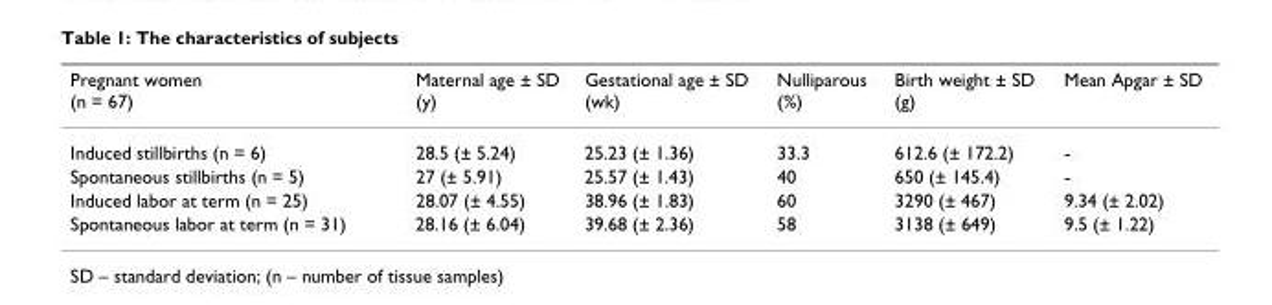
<table><thead><tr><td>Pregnant women (n = 67)</td><td>Maternal age ± SD (y)</td><td>Gestational age ± SD (wk)</td><td>Nulliparous (%)</td><td>Birth weight ± SD (g)</td><td>Mean Apgar ± SD</td></tr></thead><tbody><tr><td>Induced stillbirths (n = 6)</td><td>28.5 (± 5.24)</td><td>25.23 (± 1.36)</td><td>33.3</td><td>612.6 (± 172.2)</td><td>-</td></tr><tr><td>Spontaneous stillbirths (n = 5)</td><td>27 (± 5.91)</td><td>25.57 (± 1.43)</td><td>40</td><td>650 (± 145.4)</td><td>-</td></tr><tr><td>Induced labor at term (n = 25)</td><td>28.07 (± 4.55)</td><td>38.96 (± 1.83)</td><td>60</td><td>3290 (± 467)</td><td>9.34 (± 2.02)</td></tr><tr><td>Spontaneous labor at term (n = 31)</td><td>28.16 (± 6.04)</td><td>39.68 (± 2.36)</td><td>58</td><td>3138 (± 649)</td><td>9.5 (± 1.22)</td></tr></tbody></table>